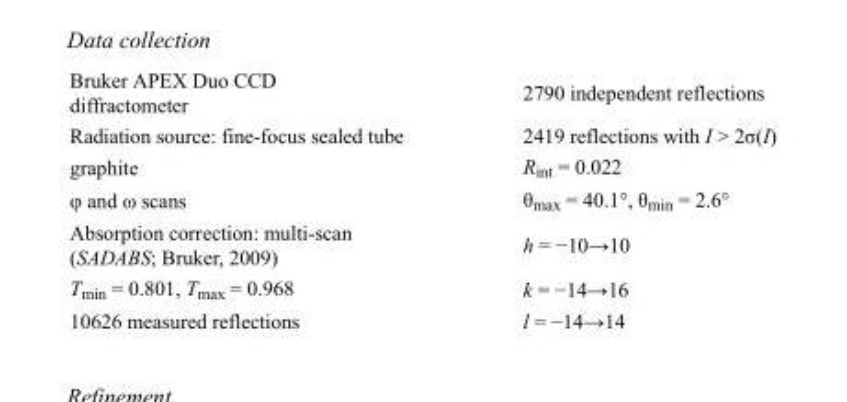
<table><tbody><tr><td>Bruker APEX Duo CCD diffractometer</td><td>2790 independent reflections</td></tr><tr><td>Radiation source: fine-focus sealed tube</td><td>2419 reflections with I &gt; 2σ(I)</td></tr><tr><td>graphite</td><td>R<sub>int</sub> = 0.022</td></tr><tr><td>φ and ω scans</td><td>θ<sub>max</sub> = 40.1°, θ<sub>min</sub> = 2.6°</td></tr><tr><td>Absorption correction: multi-scan (SADABS; Bruker, 2009)</td><td>h = −10→10</td></tr><tr><td>T<sub>min</sub> = 0.801, T<sub>max</sub> = 0.968</td><td>k = −14→16</td></tr><tr><td>10626 measured reflections</td><td>l = −14→14</td></tr></tbody></table>